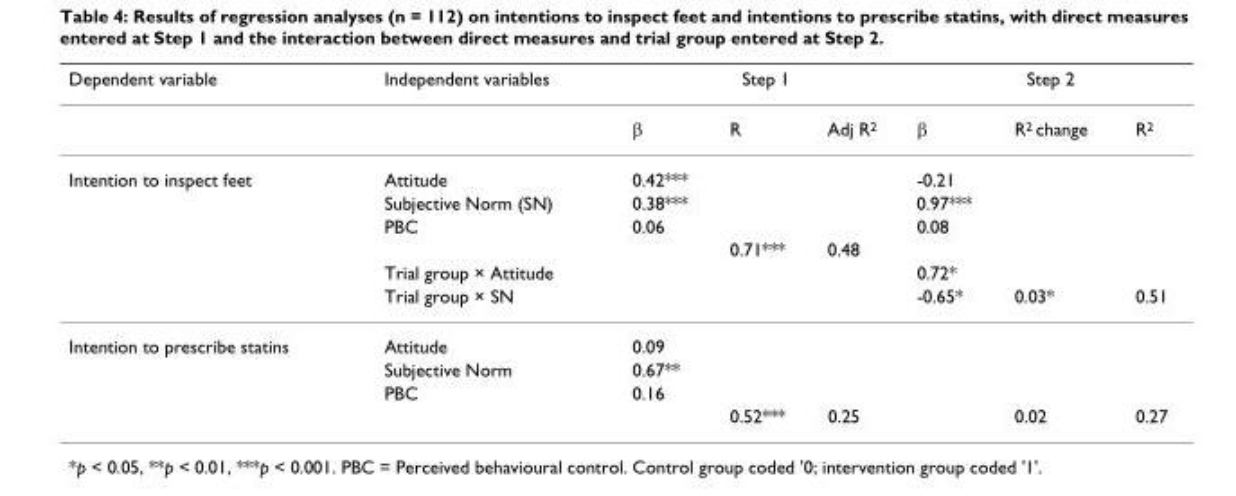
<table><thead><tr><td rowspan="2">Dependent variable</td><td rowspan="2">Independent variables</td><td colspan="3">Step 1</td><td colspan="3">Step 2</td></tr><tr><td>β</td><td>R</td><td>Adj R<sup>2</sup></td><td>β</td><td>R<sup>2</sup> change</td><td>R<sup>2</sup></td></tr></thead><tbody><tr><td rowspan="6">Intention to inspect feet</td><td>Attitude</td><td>0.42***</td><td></td><td></td><td>-0.21</td><td></td><td></td></tr><tr><td>Subjective Norm (SN)</td><td>0.38***</td><td></td><td></td><td>0.97***</td><td></td><td></td></tr><tr><td>PBC</td><td>0.06</td><td></td><td></td><td>0.08</td><td></td><td></td></tr><tr><td></td><td></td><td>0.71***</td><td>0.48</td><td></td><td></td><td></td></tr><tr><td>Trial group × Attitude</td><td></td><td></td><td></td><td>0.72*</td><td></td><td></td></tr><tr><td>Trial group × SN</td><td></td><td></td><td></td><td>-0.65*</td><td>0.03*</td><td>0.51</td></tr><tr><td rowspan="4">Intention to prescribe statins</td><td>Attitude</td><td>0.09</td><td></td><td></td><td></td><td></td><td></td></tr><tr><td>Subjective Norm</td><td>0.67**</td><td></td><td></td><td></td><td></td><td></td></tr><tr><td>PBC</td><td>0.16</td><td></td><td></td><td></td><td></td><td></td></tr><tr><td></td><td></td><td>0.52***</td><td>0.25</td><td></td><td>0.02</td><td>0.27</td></tr></tbody></table>